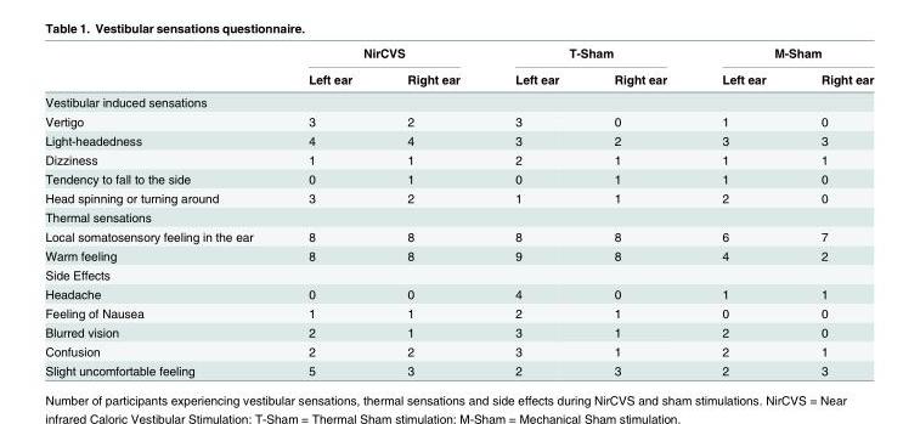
<table><thead><tr><td rowspan="2"></td><td colspan="2">NirCVS</td><td colspan="2">T-Sham</td><td colspan="2">M-Sham</td></tr><tr><td>Left ear</td><td>Right ear</td><td>Left ear</td><td>Right ear</td><td>Left ear</td><td>Right ear</td></tr></thead><tbody><tr><td colspan="7">Vestibular induced sensations</td></tr><tr><td>Vertigo</td><td>3</td><td>2</td><td>3</td><td>0</td><td>1</td><td>0</td></tr><tr><td>Light-headedness</td><td>4</td><td>4</td><td>3</td><td>2</td><td>3</td><td>3</td></tr><tr><td>Dizziness</td><td>1</td><td>1</td><td>2</td><td>1</td><td>1</td><td>1</td></tr><tr><td>Tendency to fall to the side</td><td>0</td><td>1</td><td>0</td><td>1</td><td>1</td><td>0</td></tr><tr><td>Head spinning or turning around</td><td>3</td><td>2</td><td>1</td><td>1</td><td>2</td><td>0</td></tr><tr><td colspan="7">Thermal sensations</td></tr><tr><td>Local somatosensory feeling in the ear</td><td>8</td><td>8</td><td>8</td><td>8</td><td>6</td><td>7</td></tr><tr><td>Warm feeling</td><td>8</td><td>8</td><td>9</td><td>8</td><td>4</td><td>2</td></tr><tr><td colspan="7">Side Effects</td></tr><tr><td>Headache</td><td>0</td><td>0</td><td>4</td><td>0</td><td>1</td><td>1</td></tr><tr><td>Feeling of Nausea</td><td>1</td><td>1</td><td>2</td><td>1</td><td>0</td><td>0</td></tr><tr><td>Blurred vision</td><td>2</td><td>1</td><td>3</td><td>1</td><td>2</td><td>0</td></tr><tr><td>Confusion</td><td>2</td><td>2</td><td>3</td><td>1</td><td>2</td><td>1</td></tr><tr><td>Slight uncomfortable feeling</td><td>5</td><td>3</td><td>2</td><td>3</td><td>2</td><td>3</td></tr></tbody></table>